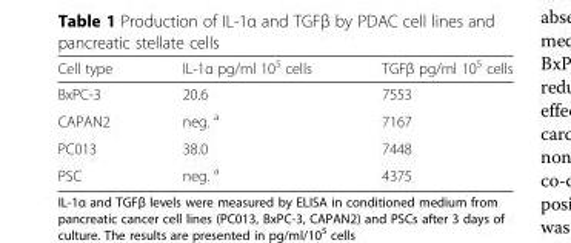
<table><thead><tr><td>Cell type</td><td>IL-1α pg/ml 10<sup>5</sup> cells</td><td>TGFβ pg/ml 10<sup>5</sup> cells</td></tr></thead><tbody><tr><td>BxPC-3</td><td>20.6</td><td>7553</td></tr><tr><td>CAPAN2</td><td>neg. <sup>a</sup></td><td>7167</td></tr><tr><td>PC013</td><td>38.0</td><td>7448</td></tr><tr><td>PSC</td><td>neg. <sup>a</sup></td><td>4375</td></tr></tbody></table>